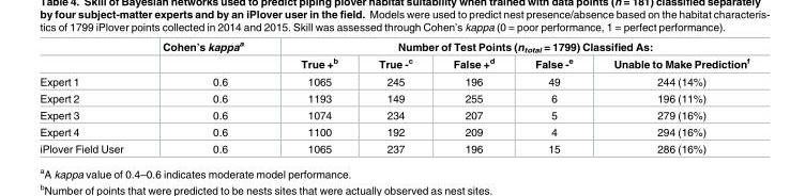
<table><thead><tr><td rowspan="2"></td><td rowspan="2">Cohen’s kappa<sup>a</sup></td><td colspan="5">Number of Test Points (n<sub>total</sub> = 1799) Classified As:</td></tr><tr><td>True +<sup>b</sup></td><td>True -<sup>c</sup></td><td>False +<sup>d</sup></td><td>False -<sup>e</sup></td><td>Unable to Make Prediction<sup>f</sup></td></tr></thead><tbody><tr><td>Expert 1</td><td>0.6</td><td>1065</td><td>245</td><td>196</td><td>49</td><td>244 (14%)</td></tr><tr><td>Expert 2</td><td>0.6</td><td>1193</td><td>149</td><td>255</td><td>6</td><td>196 (11%)</td></tr><tr><td>Expert 3</td><td>0.6</td><td>1074</td><td>234</td><td>207</td><td>5</td><td>279 (16%)</td></tr><tr><td>Expert 4</td><td>0.6</td><td>1100</td><td>192</td><td>209</td><td>4</td><td>294 (16%)</td></tr><tr><td>iPlover Field User</td><td>0.6</td><td>1065</td><td>237</td><td>196</td><td>15</td><td>286 (16%)</td></tr></tbody></table>